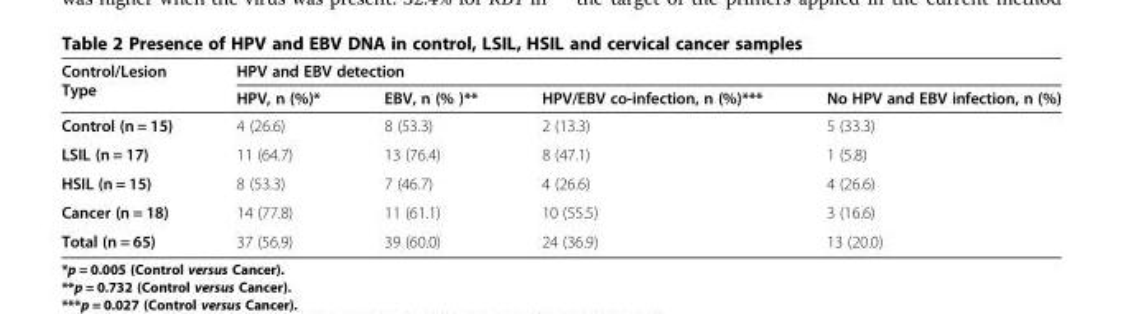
<table><thead><tr><td rowspan="2">Control/Lesion Type</td><td colspan="4">HPV and EBV detection</td></tr><tr><td>HPV, n (%)*</td><td>EBV, n (% )**</td><td>HPV/EBV co-infection, n (%)***</td><td>No HPV and EBV infection, n (%)</td></tr></thead><tbody><tr><td>Control (n = 15)</td><td>4 (26.6)</td><td>8 (53.3)</td><td>2 (13.3)</td><td>5 (33.3)</td></tr><tr><td>LSIL (n = 17)</td><td>11 (64.7)</td><td>13 (76.4)</td><td>8 (47.1)</td><td>1 (5.8)</td></tr><tr><td>HSIL (n = 15)</td><td>8 (53.3)</td><td>7 (46.7)</td><td>4 (26.6)</td><td>4 (26.6)</td></tr><tr><td>Cancer (n = 18)</td><td>14 (77.8)</td><td>11 (61.1)</td><td>10 (55.5)</td><td>3 (16.6)</td></tr><tr><td>Total (n = 65)</td><td>37 (56.9)</td><td>39 (60.0)</td><td>24 (36.9)</td><td>13 (20.0)</td></tr></tbody></table>